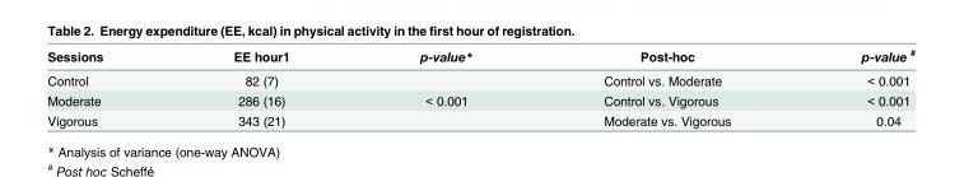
<table><thead><tr><td>Sessions</td><td>EE hour1</td><td>p-value*</td><td>Post-hoc</td><td>p-value <sup>#</sup></td></tr></thead><tbody><tr><td>Control</td><td>82 (7)</td><td></td><td>Control vs. Moderate</td><td>&lt; 0.001</td></tr><tr><td>Moderate</td><td>286 (16)</td><td>&lt; 0.001</td><td>Control vs. Vigorous</td><td>&lt; 0.001</td></tr><tr><td>Vigorous</td><td>343 (21)</td><td></td><td>Moderate vs. Vigorous</td><td>0.04</td></tr></tbody></table>